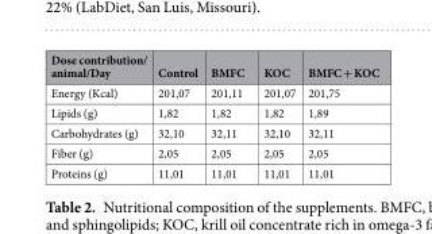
<table><thead><tr><td>Dose contribution/ animal/Day</td><td>Control</td><td>BMFC</td><td>KOC</td><td>BMFC + KOC</td></tr></thead><tbody><tr><td>Energy (Kcal)</td><td>201,07</td><td>201,11</td><td>201,07</td><td>201,75</td></tr><tr><td>Lipids (g)</td><td>1,82</td><td>1,82</td><td>1,82</td><td>1,89</td></tr><tr><td>Carbohydrates (g)</td><td>32,10</td><td>32,11</td><td>32,10</td><td>32,11</td></tr><tr><td>Fiber (g)</td><td>2,05</td><td>2,05</td><td>2,05</td><td>2,05</td></tr><tr><td>Proteins (g)</td><td>11,01</td><td>11,01</td><td>11,01</td><td>11,01</td></tr></tbody></table>